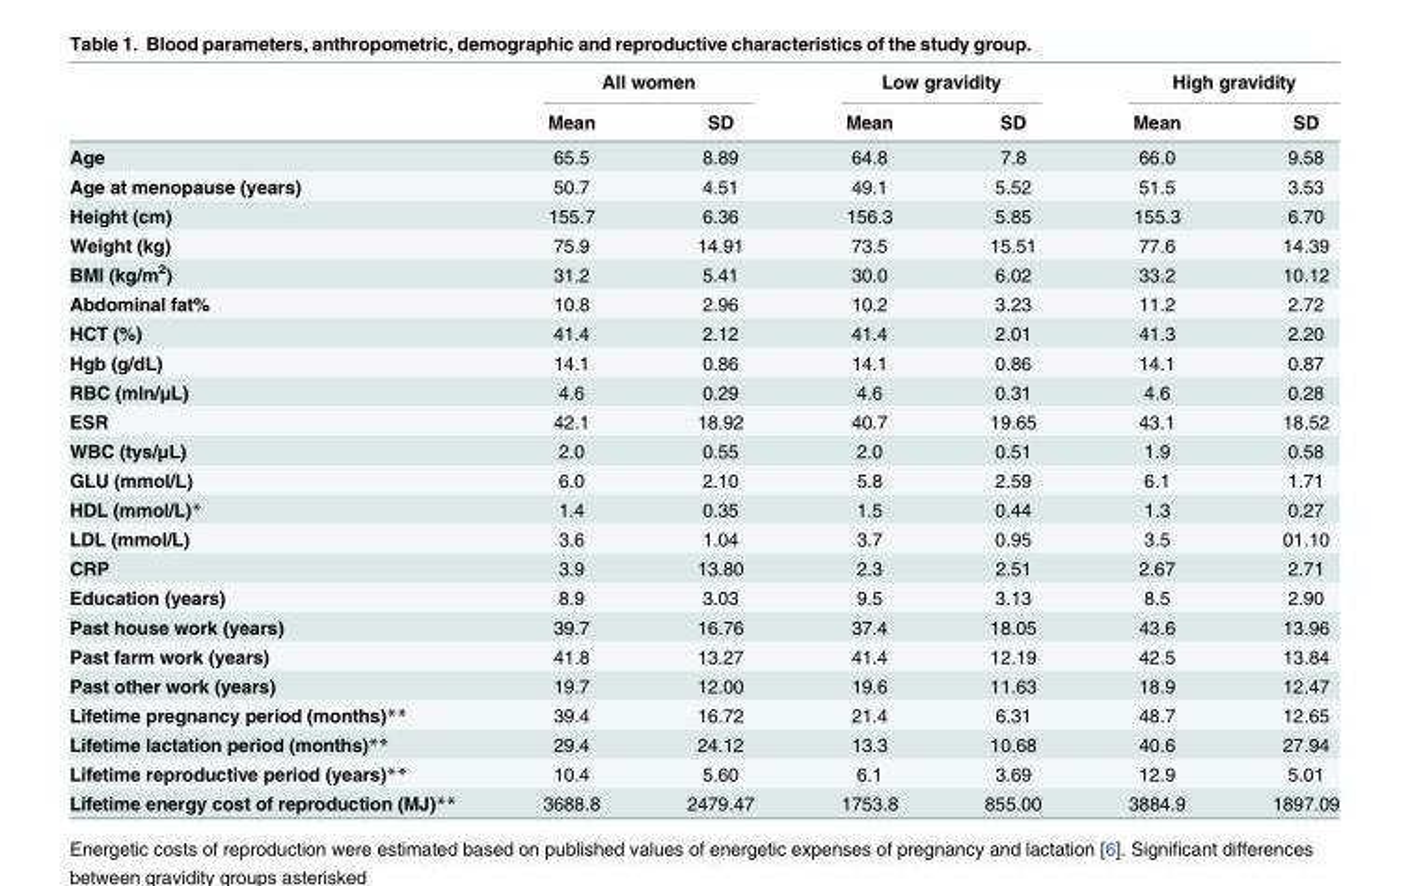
<table><thead><tr><td rowspan="2"></td><td colspan="2">All women</td><td colspan="2">Low gravidity</td><td colspan="2">High gravidity</td></tr><tr><td>Mean</td><td>SD</td><td>Mean</td><td>SD</td><td>Mean</td><td>SD</td></tr></thead><tbody><tr><td>Age</td><td>65.5</td><td>8.89</td><td>64.8</td><td>7.8</td><td>66.0</td><td>9.58</td></tr><tr><td>Age at menopause (years)</td><td>50.7</td><td>4.51</td><td>49.1</td><td>5.52</td><td>51.5</td><td>3.53</td></tr><tr><td>Height (cm)</td><td>155.7</td><td>6.36</td><td>156.3</td><td>5.85</td><td>155.3</td><td>6.70</td></tr><tr><td>Weight (kg)</td><td>75.9</td><td>14.91</td><td>73.5</td><td>15.51</td><td>77.6</td><td>14.39</td></tr><tr><td>BMI (kg/m<sup>2</sup>)</td><td>31.2</td><td>5.41</td><td>30.0</td><td>6.02</td><td>33.2</td><td>10.12</td></tr><tr><td>Abdominal fat%</td><td>10.8</td><td>2.96</td><td>10.2</td><td>3.23</td><td>11.2</td><td>2.72</td></tr><tr><td>HCT (%)</td><td>41.4</td><td>2.12</td><td>41.4</td><td>2.01</td><td>41.3</td><td>2.20</td></tr><tr><td>Hgb (g/dL)</td><td>14.1</td><td>0.86</td><td>14.1</td><td>0.86</td><td>14.1</td><td>0.87</td></tr><tr><td>RBC (mln/μL)</td><td>4.6</td><td>0.29</td><td>4.6</td><td>0.31</td><td>4.6</td><td>0.28</td></tr><tr><td>ESR</td><td>42.1</td><td>18.92</td><td>40.7</td><td>19.65</td><td>43.1</td><td>18.52</td></tr><tr><td>WBC (tys/μL)</td><td>2.0</td><td>0.55</td><td>2.0</td><td>0.51</td><td>1.9</td><td>0.58</td></tr><tr><td>GLU (mmol/L)</td><td>6.0</td><td>2.10</td><td>5.8</td><td>2.59</td><td>6.1</td><td>1.71</td></tr><tr><td>HDL (mmol/L)*</td><td>1.4</td><td>0.35</td><td>1.5</td><td>0.44</td><td>1.3</td><td>0.27</td></tr><tr><td>LDL (mmol/L)</td><td>3.6</td><td>1.04</td><td>3.7</td><td>0.95</td><td>3.5</td><td>01.10</td></tr><tr><td>CRP</td><td>3.9</td><td>13.80</td><td>2.3</td><td>2.51</td><td>2.67</td><td>2.71</td></tr><tr><td>Education (years)</td><td>8.9</td><td>3.03</td><td>9.5</td><td>3.13</td><td>8.5</td><td>2.90</td></tr><tr><td>Past house work (years)</td><td>39.7</td><td>16.76</td><td>37.4</td><td>18.05</td><td>43.6</td><td>13.96</td></tr><tr><td>Past farm work (years)</td><td>41.8</td><td>13.27</td><td>41.4</td><td>12.19</td><td>42.5</td><td>13.84</td></tr><tr><td>Past other work (years)</td><td>19.7</td><td>12.00</td><td>19.6</td><td>11.63</td><td>18.9</td><td>12.47</td></tr><tr><td>Lifetime pregnancy period (months)**</td><td>39.4</td><td>16.72</td><td>21.4</td><td>6.31</td><td>48.7</td><td>12.65</td></tr><tr><td>Lifetime lactation period (months)**</td><td>29.4</td><td>24.12</td><td>13.3</td><td>10.68</td><td>40.6</td><td>27.94</td></tr><tr><td>Lifetime reproductive period (years)**</td><td>10.4</td><td>5.60</td><td>6.1</td><td>3.69</td><td>12.9</td><td>5.01</td></tr><tr><td>Lifetime energy cost of reproduction (MJ)**</td><td>3688.8</td><td>2479.47</td><td>1753.8</td><td>855.00</td><td>3884.9</td><td>1897.09</td></tr></tbody></table>